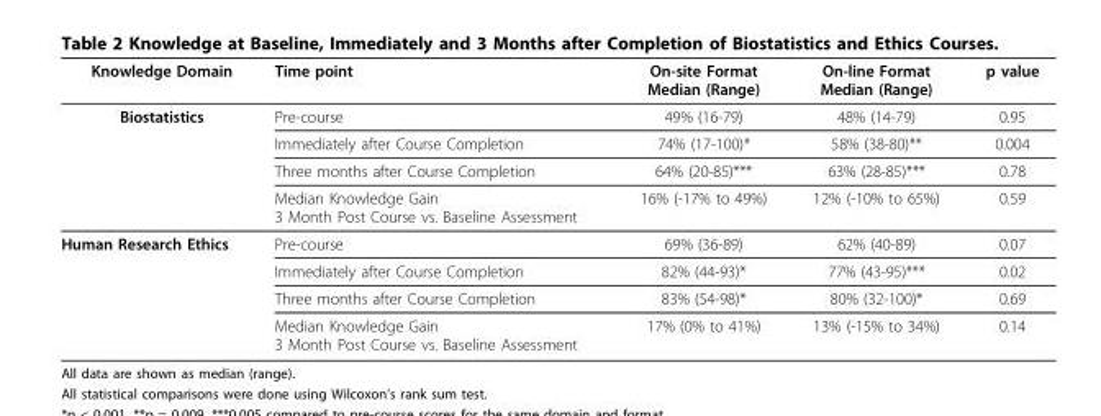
<table><thead><tr><td>Knowledge Domain</td><td>Time point</td><td>On-site Format Median (Range)</td><td>On-line Format Median (Range)</td><td>p value</td></tr></thead><tbody><tr><td rowspan="4">Biostatistics</td><td>Pre-course</td><td>49% (16-79)</td><td>48% (14-79)</td><td>0.95</td></tr><tr><td>Immediately after Course Completion</td><td>74% (17-100)*</td><td>58% (38-80)**</td><td>0.004</td></tr><tr><td>Three months after Course Completion</td><td>64% (20-85)***</td><td>63% (28-85)***</td><td>0.78</td></tr><tr><td>Median Knowledge Gain 3 Month Post Course vs. Baseline Assessment</td><td>16% (-17% to 49%)</td><td>12% (-10% to 65%)</td><td>0.59</td></tr><tr><td rowspan="4">Human Research Ethics</td><td>Pre-course</td><td>69% (36-89)</td><td>62% (40-89)</td><td>0.07</td></tr><tr><td>Immediately after Course Completion</td><td>82% (44-93)*</td><td>77% (43-95)***</td><td>0.02</td></tr><tr><td>Three months after Course Completion</td><td>83% (54-98)*</td><td>80% (32-100)*</td><td>0.69</td></tr><tr><td>Median Knowledge Gain 3 Month Post Course vs. Baseline Assessment</td><td>17% (0% to 41%)</td><td>13% (-15% to 34%)</td><td>0.14</td></tr></tbody></table>